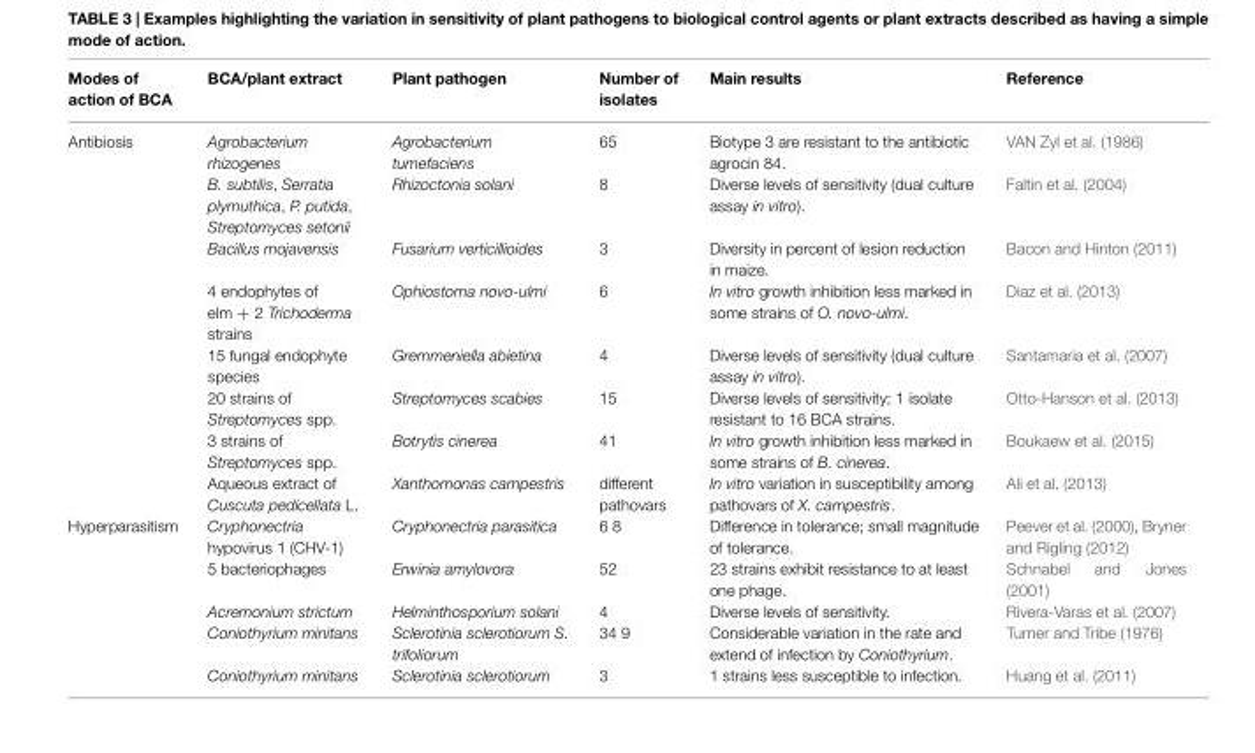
<table><thead><tr><td>Modes of action of BCA</td><td>BCA/plant extract</td><td>Plant pathogen</td><td>Number of isolates</td><td>Main results</td><td>Reference</td></tr></thead><tbody><tr><td rowspan="8">Antibiosis</td><td>Agrobacterium rhizogenes</td><td>Agrobacterium tumefaciens</td><td>65</td><td>Biotype 3 are resistant to the antibiotic agrocin 84.</td><td>VAN Zyl et al. (1986)</td></tr><tr><td>B. subtilis, Serratia plymuthica, P. putida, Streptomyces setonii</td><td>Rhizoctonia solani</td><td>8</td><td>Diverse levels of sensitivity (dual culture assay in vitro).</td><td>Faltin et al. (2004)</td></tr><tr><td>Bacillus mojavensis</td><td>Fusarium verticillioides</td><td>3</td><td>Diversity in percent of lesion reduction in maize.</td><td>Bacon and Hinton (2011)</td></tr><tr><td>4 endophytes of elm + 2 Trichoderma strains</td><td>Ophiostoma novo-ulmi</td><td>6</td><td>In vitro growth inhibition less marked in some strains of O. novo-ulmi.</td><td>Diaz et al. (2013)</td></tr><tr><td>15 fungal endophyte species</td><td>Gremmeniella abietina</td><td>4</td><td>Diverse levels of sensitivity (dual culture assay in vitro).</td><td>Santamaria et al. (2007)</td></tr><tr><td>20 strains of Streptomyces spp.</td><td>Streptomyces scabies</td><td>15</td><td>Diverse levels of sensitivity; 1 isolate resistant to 16 BCA strains.</td><td>Otto-Hanson et al. (2013)</td></tr><tr><td>3 strains of Streptomyces spp.</td><td>Botrytis cinerea</td><td>41</td><td>In vitro growth inhibition less marked in some strains of B. cinerea.</td><td>Boukaew et al. (2015)</td></tr><tr><td>Aqueous extract of Cuscuta pedicellata L.</td><td>Xanthomonas campestris</td><td>different pathovars</td><td>In vitro variation in susceptibility among pathovars of X. campestris.</td><td>Ali et al. (2013)</td></tr><tr><td rowspan="5">Hyperparasitism</td><td>Cryphonectria hypovirus 1 (CHV-1)</td><td>Cryphonectria parasitica</td><td>6 8</td><td>Difference in tolerance; small magnitude of tolerance.</td><td>Peever et al. (2000), Bryner and Rigling (2012)</td></tr><tr><td>5 bacteriophages</td><td>Erwinia amylovora</td><td>52</td><td>23 strains exhibit resistance to at least one phage.</td><td>Schnabel and Jones (2001)</td></tr><tr><td>Acremonium strictum</td><td>Helminthosporium solani</td><td>4</td><td>Diverse levels of sensitivity.</td><td>Rivera-Varas et al. (2007)</td></tr><tr><td>Coniothyrium minitans</td><td>Sclerotinia sclerotiorum S. trifoliorum</td><td>34 9</td><td>Considerable variation in the rate and extend of infection by Coniothyrium.</td><td>Turner and Tribe (1976)</td></tr><tr><td>Coniothyrium minitans</td><td>Sclerotinia sclerotiorum</td><td>3</td><td>1 strains less susceptible to infection.</td><td>Huang et al. (2011)</td></tr></tbody></table>